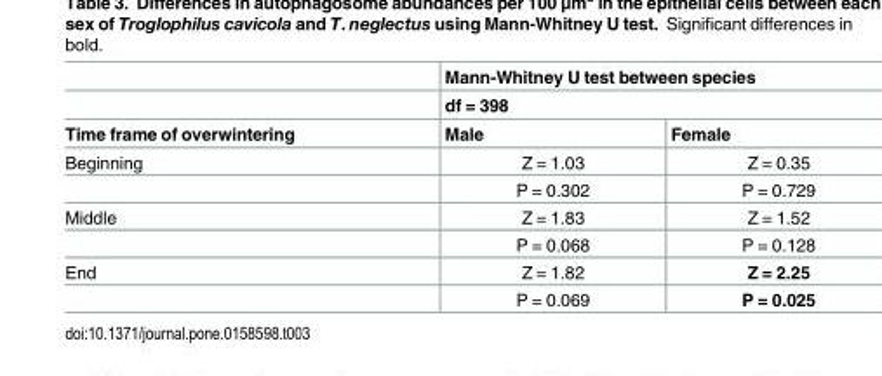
<table><thead><tr><td rowspan="3">Time frame of overwintering</td><td rowspan="2" colspan="2">Mann-Whitney U test between species df = 398</td></tr><tr></tr><tr><td>Male</td><td>Female</td></tr></thead><tbody><tr><td rowspan="2">Beginning</td><td>Z = 1.03</td><td>Z = 0.35</td></tr><tr><td>P = 0.302</td><td>P = 0.729</td></tr><tr><td rowspan="2">Middle</td><td>Z = 1.83</td><td>Z = 1.52</td></tr><tr><td>P = 0.068</td><td>P = 0.128</td></tr><tr><td rowspan="2">End</td><td>Z = 1.82</td><td>Z = 2.25</td></tr><tr><td>P = 0.069</td><td>P = 0.025</td></tr></tbody></table>